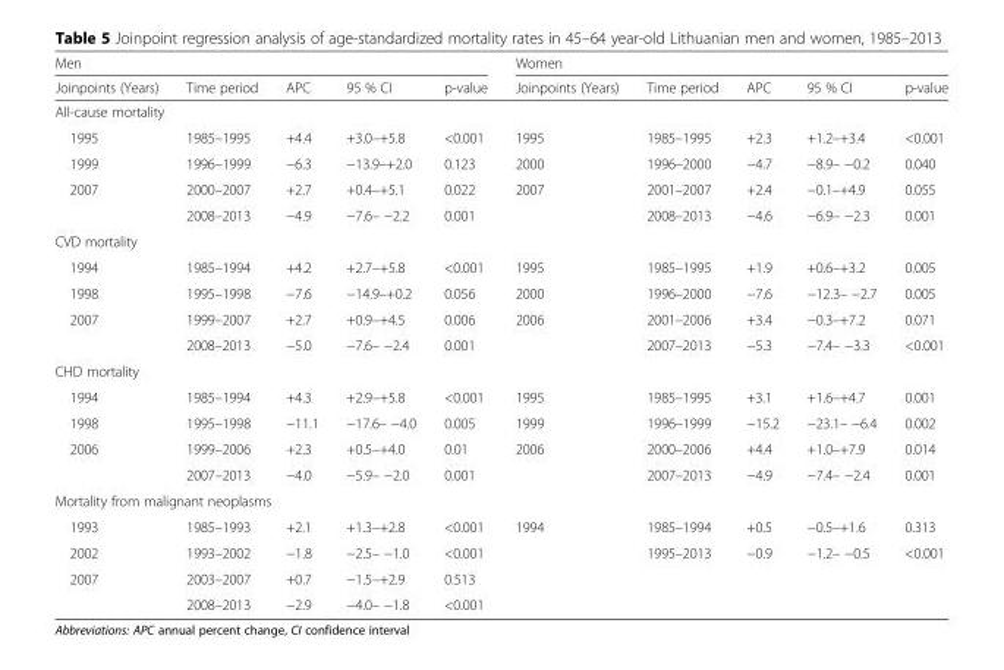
<table><thead><tr><td colspan="5">Men</td><td colspan="5">Women</td></tr><tr><td>Joinpoints (Years)</td><td>Time period</td><td>APC</td><td>95 % CI</td><td>p-value</td><td>Joinpoints (Years)</td><td>Time period</td><td>APC</td><td>95 % CI</td><td>p-value</td></tr></thead><tbody><tr><td colspan="10">All-cause mortality</td></tr><tr><td>1995</td><td>1985–1995</td><td>+4.4</td><td>+3.0–+5.8</td><td>&lt;0.001</td><td>1995</td><td>1985–1995</td><td>+2.3</td><td>+1.2–+3.4</td><td>&lt;0.001</td></tr><tr><td>1999</td><td>1996–1999</td><td>−6.3</td><td>−13.9–+2.0</td><td>0.123</td><td>2000</td><td>1996–2000</td><td>−4.7</td><td>−8.9– −0.2</td><td>0.040</td></tr><tr><td rowspan="2">2007</td><td>2000–2007</td><td>+2.7</td><td>+0.4–+5.1</td><td>0.022</td><td>2007</td><td>2001–2007</td><td>+2.4</td><td>−0.1–+4.9</td><td>0.055</td></tr><tr><td>2008–2013</td><td>−4.9</td><td>−7.6– −2.2</td><td>0.001</td><td></td><td>2008–2013</td><td>−4.6</td><td>−6.9– −2.3</td><td>0.001</td></tr><tr><td colspan="10">CVD mortality</td></tr><tr><td>1994</td><td>1985–1994</td><td>+4.2</td><td>+2.7–+5.8</td><td>&lt;0.001</td><td>1995</td><td>1985–1995</td><td>+1.9</td><td>+0.6–+3.2</td><td>0.005</td></tr><tr><td>1998</td><td>1995–1998</td><td>−7.6</td><td>−14.9–+0.2</td><td>0.056</td><td>2000</td><td>1996–2000</td><td>−7.6</td><td>−12.3– −2.7</td><td>0.005</td></tr><tr><td rowspan="2">2007</td><td>1999–2007</td><td>+2.7</td><td>+0.9–+4.5</td><td>0.006</td><td>2006</td><td>2001–2006</td><td>+3.4</td><td>−0.3–+7.2</td><td>0.071</td></tr><tr><td>2008–2013</td><td>−5.0</td><td>−7.6– −2.4</td><td>0.001</td><td></td><td>2007–2013</td><td>−5.3</td><td>−7.4– −3.3</td><td>&lt;0.001</td></tr><tr><td colspan="10">CHD mortality</td></tr><tr><td>1994</td><td>1985–1994</td><td>+4.3</td><td>+2.9–+5.8</td><td>&lt;0.001</td><td>1995</td><td>1985–1995</td><td>+3.1</td><td>+1.6–+4.7</td><td>0.001</td></tr><tr><td>1998</td><td>1995–1998</td><td>−11.1</td><td>−17.6– −4.0</td><td>0.005</td><td>1999</td><td>1996–1999</td><td>−15.2</td><td>−23.1– −6.4</td><td>0.002</td></tr><tr><td rowspan="2">2006</td><td>1999–2006</td><td>+2.3</td><td>+0.5–+4.0</td><td>0.01</td><td>2006</td><td>2000–2006</td><td>+4.4</td><td>+1.0–+7.9</td><td>0.014</td></tr><tr><td>2007–2013</td><td>−4.0</td><td>−5.9– −2.0</td><td>0.001</td><td></td><td>2007–2013</td><td>−4.9</td><td>−7.4– −2.4</td><td>0.001</td></tr><tr><td colspan="10">Mortality from malignant neoplasms</td></tr><tr><td>1993</td><td>1985–1993</td><td>+2.1</td><td>+1.3–+2.8</td><td>&lt;0.001</td><td>1994</td><td>1985–1994</td><td>+0.5</td><td>−0.5–+1.6</td><td>0.313</td></tr><tr><td>2002</td><td>1993–2002</td><td>−1.8</td><td>−2.5– −1.0</td><td>&lt;0.001</td><td></td><td>1995–2013</td><td>−0.9</td><td>−1.2– −0.5</td><td>&lt;0.001</td></tr><tr><td rowspan="2">2007</td><td>2003–2007</td><td>+0.7</td><td>−1.5–+2.9</td><td>0.513</td><td></td><td></td><td></td><td></td><td></td></tr><tr><td>2008–2013</td><td>−2.9</td><td>−4.0– −1.8</td><td>&lt;0.001</td><td></td><td></td><td></td><td></td><td></td></tr></tbody></table>